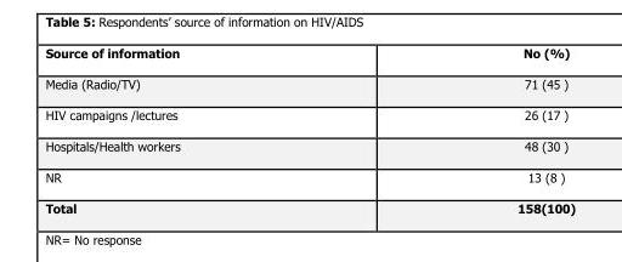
<table><thead><tr><td>Source of information</td><td>No (%)</td></tr></thead><tbody><tr><td>Media (Radio/TV)</td><td>71 (45 )</td></tr><tr><td>HIV campaigns /lectures</td><td>26 (17 )</td></tr><tr><td>Hospitals/Health workers</td><td>48 (30 )</td></tr><tr><td>NR</td><td>13 (8 )</td></tr><tr><td>Total</td><td>158(100)</td></tr></tbody></table>